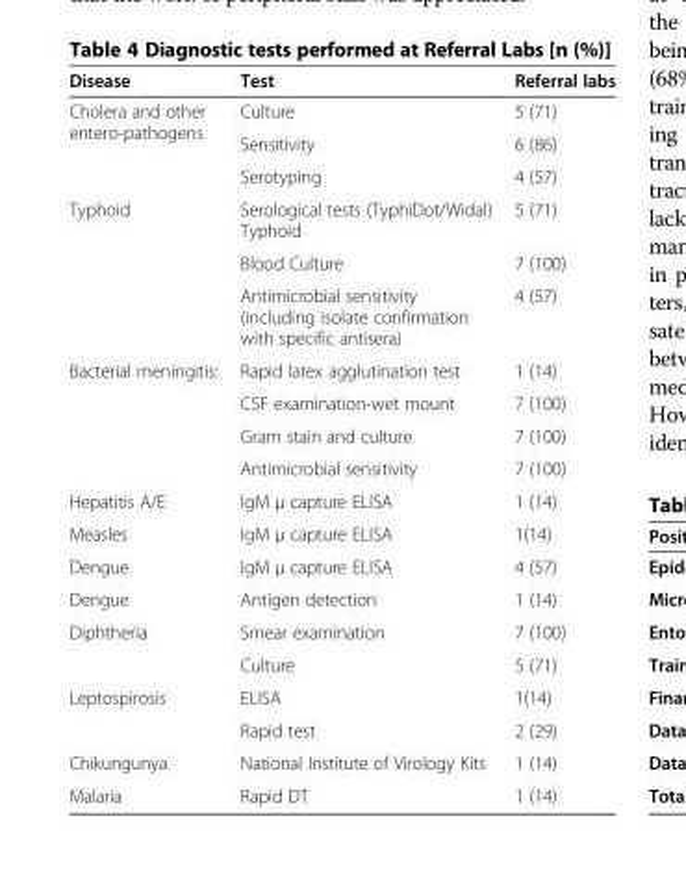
<table><thead><tr><td>Disease</td><td>Test</td><td>Referral labs</td></tr></thead><tbody><tr><td rowspan="3">Cholera and other entero-pathogens</td><td>Culture</td><td>5 (71)</td></tr><tr><td>Sensitivity</td><td>6 (86)</td></tr><tr><td>Serotyping</td><td>4 (57)</td></tr><tr><td rowspan="3">Typhoid</td><td>Serological tests (TyphiDot/Widal) Typhoid</td><td>5 (71)</td></tr><tr><td>Blood Culture</td><td>7 (100)</td></tr><tr><td>Antimicrobial sensitivity (including isolate confirmation with specific antisera)</td><td>4 (57)</td></tr><tr><td rowspan="4">Bacterial meningitis:</td><td>Rapid latex agglutination test</td><td>1 (14)</td></tr><tr><td>CSF examination-wet mount</td><td>7 (100)</td></tr><tr><td>Gram stain and culture</td><td>7 (100)</td></tr><tr><td>Antimicrobial sensitivity</td><td>7 (100)</td></tr><tr><td>Hepatitis A/E</td><td>IgM μ capture ELISA</td><td>1 (14)</td></tr><tr><td>Measles</td><td>IgM μ capture ELISA</td><td>1(14)</td></tr><tr><td>Dengue</td><td>IgM μ capture ELISA</td><td>4 (57)</td></tr><tr><td>Dengue</td><td>Antigen detection</td><td>1 (14)</td></tr><tr><td rowspan="2">Diphtheria</td><td>Smear examination</td><td>7 (100)</td></tr><tr><td>Culture</td><td>5 (71)</td></tr><tr><td rowspan="2">Leptospirosis</td><td>ELISA</td><td>1(14)</td></tr><tr><td>Rapid test</td><td>2 (29)</td></tr><tr><td>Chikungunya</td><td>National Institute of Virology Kits</td><td>1 (14)</td></tr><tr><td>Malaria</td><td>Rapid DT</td><td>1 (14)</td></tr></tbody></table>